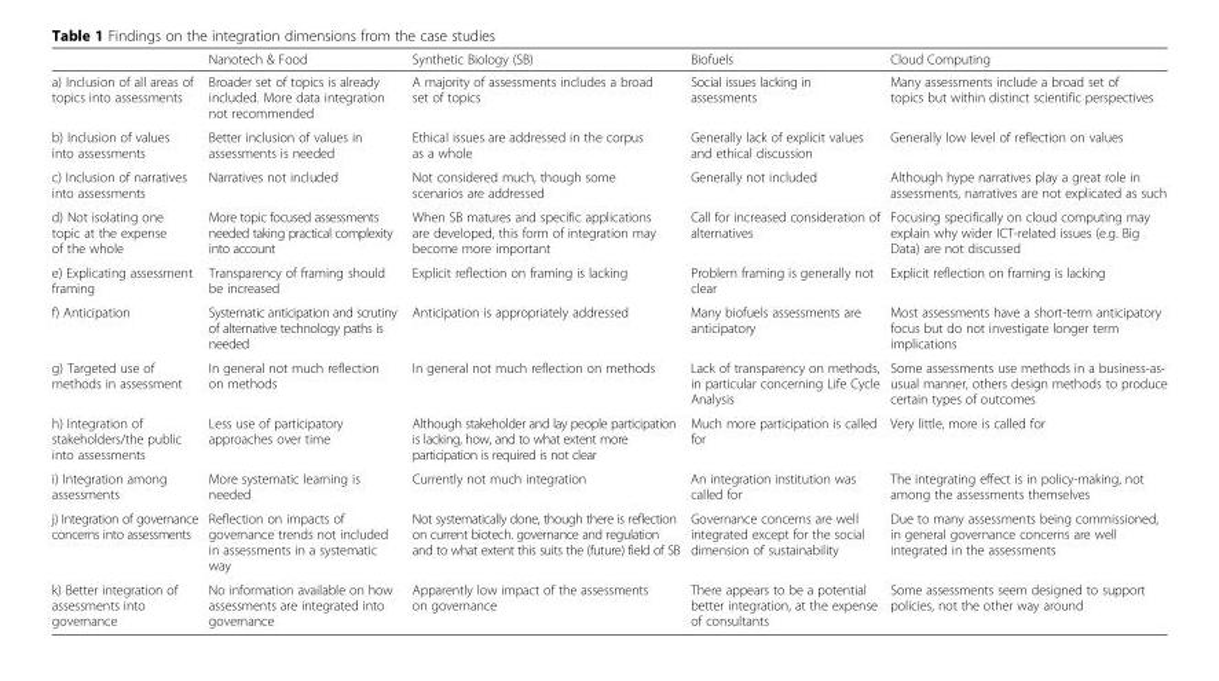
<table><thead><tr><td></td><td>Nanotech &amp; Food</td><td>Synthetic Biology (SB)</td><td>Biofuels</td><td>Cloud Computing</td></tr></thead><tbody><tr><td>a) Inclusion of all areas of topics into assessments</td><td>Broader set of topics is already included. More data integration not recommended</td><td>A majority of assessments includes a broad set of topics</td><td>Social issues lacking in assessments</td><td>Many assessments include a broad set of topics but within distinct scientific perspectives</td></tr><tr><td>b) Inclusion of values into assessments</td><td>Better inclusion of values in assessments is needed</td><td>Ethical issues are addressed in the corpus as a whole</td><td>Generally lack of explicit values and ethical discussion</td><td>Generally low level of reflection on values</td></tr><tr><td>c) Inclusion of narratives into assessments</td><td>Narratives not included</td><td>Not considered much, though some scenarios are addressed</td><td>Generally not included</td><td>Although hype narratives play a great role in assessments, narratives are not explicated as such</td></tr><tr><td>d) Not isolating one topic at the expense of the whole</td><td>More topic focused assessments needed taking practical complexity into account</td><td>When SB matures and specific applications are developed, this form of integration may become more important</td><td>Call for increased consideration of alternatives</td><td>Focusing specifically on cloud computing may explain why wider ICT-related issues (e.g. Big Data) are not discussed</td></tr><tr><td>e) Explicating assessment framing</td><td>Transparency of framing should be increased</td><td>Explicit reflection on framing is lacking</td><td>Problem framing is generally not clear</td><td>Explicit reflection on framing is lacking</td></tr><tr><td>f) Anticipation</td><td>Systematic anticipation and scrutiny of alternative technology paths is needed</td><td>Anticipation is appropriately addressed</td><td>Many biofuels assessments are anticipatory</td><td>Most assessments have a short-term anticipatory focus but do not investigate longer term implications</td></tr><tr><td>g) Targeted use of methods in assessment</td><td>In general not much reflection on methods</td><td>In general not much reflection on methods</td><td>Lack of transparency on methods, in particular concerning Life Cycle Analysis</td><td>Some assessments use methods in a business-as- usual manner, others design methods to produce certain types of outcomes</td></tr><tr><td>h) Integration of stakeholders/the public into assessments</td><td>Less use of participatory approaches over time</td><td>Although stakeholder and lay people participation is lacking, how, and to what extent more participation is required is not clear</td><td>Much more participation is called for</td><td>Very little, more is called for</td></tr><tr><td>i) Integration among assessments</td><td>More systematic learning is needed</td><td>Currently not much integration</td><td>An integration institution was called for</td><td>The integrating effect is in policy-making, not among the assessments themselves</td></tr><tr><td>j) Integration of governance concerns into assessments</td><td>Reflection on impacts of governance trends not included in assessments in a systematic way</td><td>Not systematically done, though there is reflection on current biotech. governance and regulation and to what extent this suits the (future) field of SB</td><td>Governance concerns are well integrated except for the social dimension of sustainability</td><td>Due to many assessments being commissioned, in general governance concerns are well integrated in the assessments</td></tr><tr><td>k) Better integration of assessments into governance</td><td>No information available on how assessments are integrated into governance</td><td>Apparently low impact of the assessments on governance</td><td>There appears to be a potential better integration, at the expense of consultants</td><td>Some assessments seem designed to support policies, not the other way around</td></tr></tbody></table>